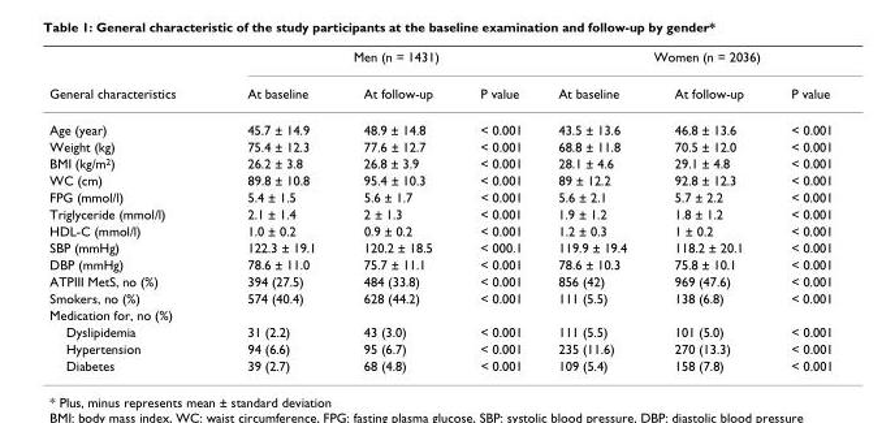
<table><thead><tr><td rowspan="2">General characteristics</td><td colspan="3">Men (n = 1431)</td><td colspan="3">Women (n = 2036)</td></tr><tr><td>At baseline</td><td>At follow-up</td><td>P value</td><td>At baseline</td><td>At follow-up</td><td>P value</td></tr></thead><tbody><tr><td>Age (year)</td><td>45.7 ± 14.9</td><td>48.9 ± 14.8</td><td>&lt; 0.001</td><td>43.5 ± 13.6</td><td>46.8 ± 13.6</td><td>&lt; 0.001</td></tr><tr><td>Weight (kg)</td><td>75.4 ± 12.3</td><td>77.6 ± 12.7</td><td>&lt; 0.001</td><td>68.8 ± 11.8</td><td>70.5 ± 12.0</td><td>&lt; 0.001</td></tr><tr><td>BMI (kg/m<sup>2</sup>)</td><td>26.2 ± 3.8</td><td>26.8 ± 3.9</td><td>&lt; 0.001</td><td>28.1 ± 4.6</td><td>29.1 ± 4.8</td><td>&lt; 0.001</td></tr><tr><td>WC (cm)</td><td>89.8 ± 10.8</td><td>95.4 ± 10.3</td><td>&lt; 0.001</td><td>89 ± 12.2</td><td>92.8 ± 12.3</td><td>&lt; 0.001</td></tr><tr><td>FPG (mmol/l)</td><td>5.4 ± 1.5</td><td>5.6 ± 1.7</td><td>&lt; 0.001</td><td>5.6 ± 2.1</td><td>5.7 ± 2.2</td><td>&lt; 0.001</td></tr><tr><td>Triglyceride (mmol/l)</td><td>2.1 ± 1.4</td><td>2 ± 1.3</td><td>&lt; 0.001</td><td>1.9 ± 1.2</td><td>1.8 ± 1.2</td><td>&lt; 0.001</td></tr><tr><td>HDL-C (mmol/l)</td><td>1.0 ± 0.2</td><td>0.9 ± 0.2</td><td>&lt; 0.001</td><td>1.2 ± 0.3</td><td>1 ± 0.2</td><td>&lt; 0.001</td></tr><tr><td>SBP (mmHg)</td><td>122.3 ± 19.1</td><td>120.2 ± 18.5</td><td>&lt; 000.1</td><td>119.9 ± 19.4</td><td>118.2 ± 20.1</td><td>&lt; 0.001</td></tr><tr><td>DBP (mmHg)</td><td>78.6 ± 11.0</td><td>75.7 ± 11.1</td><td>&lt; 0.001</td><td>78.6 ± 10.3</td><td>75.8 ± 10.1</td><td>&lt; 0.001</td></tr><tr><td>ATPIII MetS, no (%)</td><td>394 (27.5)</td><td>484 (33.8)</td><td>&lt; 0.001</td><td>856 (42)</td><td>969 (47.6)</td><td>&lt; 0.001</td></tr><tr><td>Smokers, no (%)</td><td>574 (40.4)</td><td>628 (44.2)</td><td>&lt; 0.001</td><td>111 (5.5)</td><td>138 (6.8)</td><td>&lt; 0.001</td></tr><tr><td colspan="7">Medication for, no (%)</td></tr><tr><td>Dyslipidemia</td><td>31 (2.2)</td><td>43 (3.0)</td><td>&lt; 0.001</td><td>111 (5.5)</td><td>101 (5.0)</td><td>&lt; 0.001</td></tr><tr><td>Hypertension</td><td>94 (6.6)</td><td>95 (6.7)</td><td>&lt; 0.001</td><td>235 (11.6)</td><td>270 (13.3)</td><td>&lt; 0.001</td></tr><tr><td>Diabetes</td><td>39 (2.7)</td><td>68 (4.8)</td><td>&lt; 0.001</td><td>109 (5.4)</td><td>158 (7.8)</td><td>&lt; 0.001</td></tr></tbody></table>